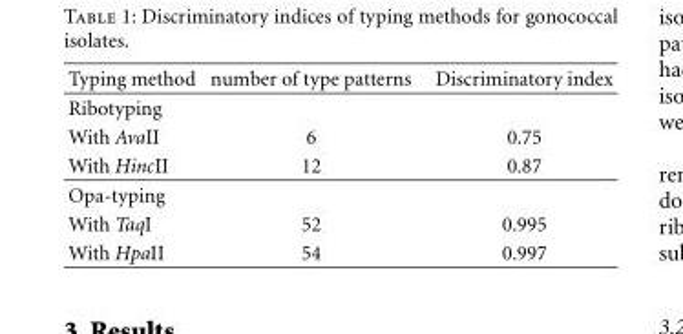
<table><thead><tr><td>Typing method</td><td>number of type patterns</td><td>Discriminatory index</td></tr></thead><tbody><tr><td colspan="3">Ribotyping</td></tr><tr><td>With AvaII</td><td>6</td><td>0.75</td></tr><tr><td>With HincII</td><td>12</td><td>0.87</td></tr><tr><td colspan="3">Opa-typing</td></tr><tr><td>With TaqI</td><td>52</td><td>0.995</td></tr><tr><td>With HpaII</td><td>54</td><td>0.997</td></tr></tbody></table>